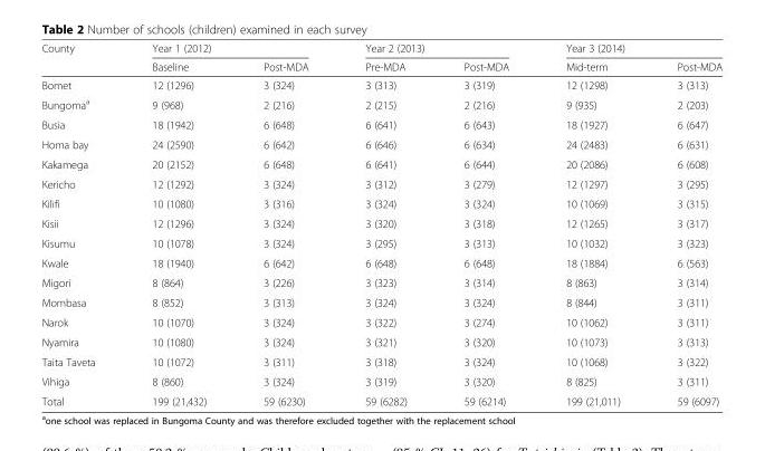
<table><thead><tr><td rowspan="2">County</td><td colspan="2">Year 1 (2012)</td><td colspan="2">Year 2 (2013)</td><td colspan="2">Year 3 (2014)</td></tr><tr><td>Baseline</td><td>Post-MDA</td><td>Pre-MDA</td><td>Post-MDA</td><td>Mid-term</td><td>Post-MDA</td></tr></thead><tbody><tr><td>Bomet</td><td>12 (1296)</td><td>3 (324)</td><td>3 (313)</td><td>3 (319)</td><td>12 (1298)</td><td>3 (313)</td></tr><tr><td>Bungoma<sup>a</sup></td><td>9 (968)</td><td>2 (216)</td><td>2 (215)</td><td>2 (216)</td><td>9 (935)</td><td>2 (203)</td></tr><tr><td>Busia</td><td>18 (1942)</td><td>6 (648)</td><td>6 (641)</td><td>6 (643)</td><td>18 (1927)</td><td>6 (647)</td></tr><tr><td>Homa bay</td><td>24 (2590)</td><td>6 (642)</td><td>6 (646)</td><td>6 (634)</td><td>24 (2483)</td><td>6 (631)</td></tr><tr><td>Kakamega</td><td>20 (2152)</td><td>6 (648)</td><td>6 (641)</td><td>6 (644)</td><td>20 (2086)</td><td>6 (608)</td></tr><tr><td>Kericho</td><td>12 (1292)</td><td>3 (324)</td><td>3 (312)</td><td>3 (279)</td><td>12 (1297)</td><td>3 (295)</td></tr><tr><td>Kilifi</td><td>10 (1080)</td><td>3 (316)</td><td>3 (324)</td><td>3 (324)</td><td>10 (1069)</td><td>3 (315)</td></tr><tr><td>Kisii</td><td>12 (1296)</td><td>3 (324)</td><td>3 (320)</td><td>3 (318)</td><td>12 (1265)</td><td>3 (317)</td></tr><tr><td>Kisumu</td><td>10 (1078)</td><td>3 (324)</td><td>3 (295)</td><td>3 (313)</td><td>10 (1032)</td><td>3 (323)</td></tr><tr><td>Kwale</td><td>18 (1940)</td><td>6 (642)</td><td>6 (648)</td><td>6 (648)</td><td>18 (1884)</td><td>6 (563)</td></tr><tr><td>Migori</td><td>8 (864)</td><td>3 (226)</td><td>3 (323)</td><td>3 (314)</td><td>8 (863)</td><td>3 (314)</td></tr><tr><td>Mombasa</td><td>8 (852)</td><td>3 (313)</td><td>3 (324)</td><td>3 (324)</td><td>8 (844)</td><td>3 (311)</td></tr><tr><td>Narok</td><td>10 (1070)</td><td>3 (324)</td><td>3 (322)</td><td>3 (274)</td><td>10 (1062)</td><td>3 (311)</td></tr><tr><td>Nyamira</td><td>10 (1080)</td><td>3 (324)</td><td>3 (321)</td><td>3 (320)</td><td>10 (1073)</td><td>3 (313)</td></tr><tr><td>Taita Taveta</td><td>10 (1072)</td><td>3 (311)</td><td>3 (318)</td><td>3 (324)</td><td>10 (1068)</td><td>3 (322)</td></tr><tr><td>Vihiga</td><td>8 (860)</td><td>3 (324)</td><td>3 (319)</td><td>3 (320)</td><td>8 (825)</td><td>3 (311)</td></tr><tr><td>Total</td><td>199 (21,432)</td><td>59 (6230)</td><td>59 (6282)</td><td>59 (6214)</td><td>199 (21,011)</td><td>59 (6097)</td></tr></tbody></table>